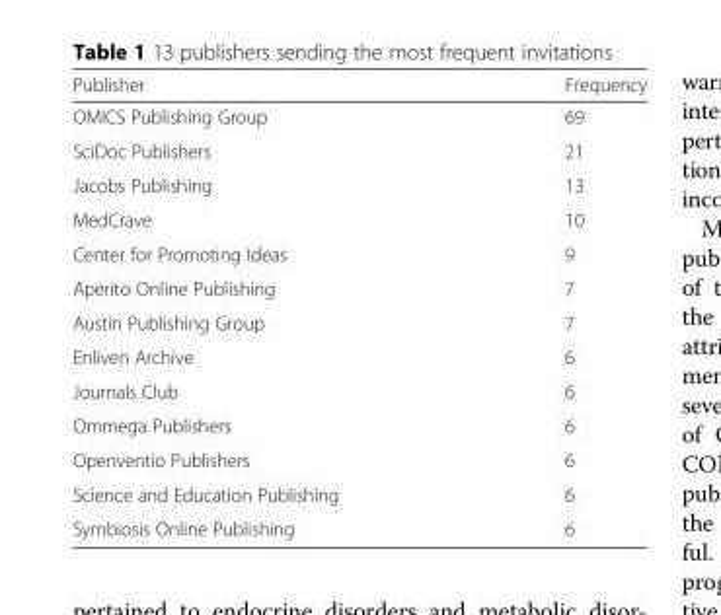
<table><thead><tr><td>Publisher</td><td>Frequency</td></tr></thead><tbody><tr><td>OMICS Publishing Group</td><td>69</td></tr><tr><td>SciDoc Publishers</td><td>21</td></tr><tr><td>Jacobs Publishing</td><td>13</td></tr><tr><td>MedCrave</td><td>10</td></tr><tr><td>Center for Promoting Ideas</td><td>9</td></tr><tr><td>Aperito Online Publishing</td><td>7</td></tr><tr><td>Austin Publishing Group</td><td>7</td></tr><tr><td>Enliven Archive</td><td>6</td></tr><tr><td>Journals Club</td><td>6</td></tr><tr><td>Ommega Publishers</td><td>6</td></tr><tr><td>Openventio Publishers</td><td>6</td></tr><tr><td>Science and Education Publishing</td><td>6</td></tr><tr><td>Symbiosis Online Publishing</td><td>6</td></tr></tbody></table>